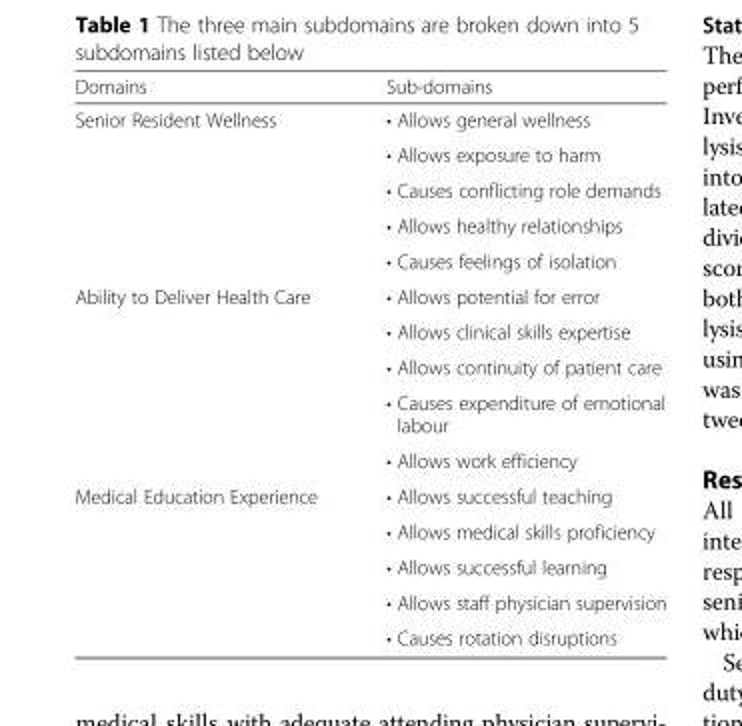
<table><thead><tr><td>Domains</td><td>Sub-domains</td></tr></thead><tbody><tr><td rowspan="5">Senior Resident Wellness</td><td>• Allows general wellness</td></tr><tr><td>• Allows exposure to harm</td></tr><tr><td>• Causes conflicting role demands</td></tr><tr><td>• Allows healthy relationships</td></tr><tr><td>• Causes feelings of isolation</td></tr><tr><td rowspan="5">Ability to Deliver Health Care</td><td>• Allows potential for error</td></tr><tr><td>• Allows clinical skills expertise</td></tr><tr><td>• Allows continuity of patient care</td></tr><tr><td>• Causes expenditure of emotional labour</td></tr><tr><td>• Allows work efficiency</td></tr><tr><td rowspan="5">Medical Education Experience</td><td>• Allows successful teaching</td></tr><tr><td>• Allows medical skills proficiency</td></tr><tr><td>• Allows successful learning</td></tr><tr><td>• Allows staff physician supervision</td></tr><tr><td>• Causes rotation disruptions</td></tr></tbody></table>